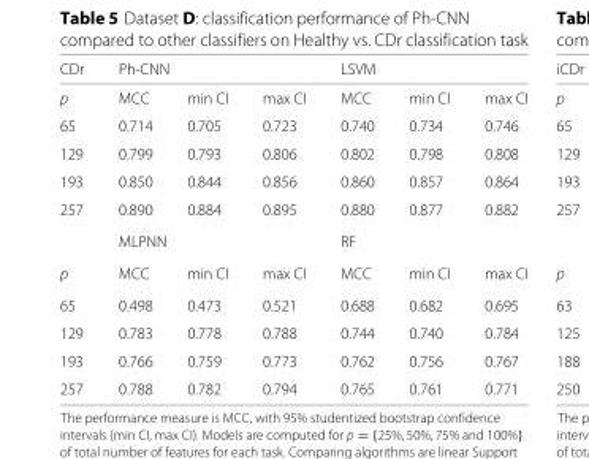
<table><thead><tr><td rowspan="2">CDr p</td><td colspan="3">Ph-CNN</td><td colspan="3">LSVM</td></tr><tr><td>MCC</td><td>min CI</td><td>max CI</td><td>MCC</td><td>min CI</td><td>max CI</td></tr></thead><tbody><tr><td>65</td><td>0.714</td><td>0.705</td><td>0.723</td><td>0.740</td><td>0.734</td><td>0.746</td></tr><tr><td>129</td><td>0.799</td><td>0.793</td><td>0.806</td><td>0.802</td><td>0.798</td><td>0.808</td></tr><tr><td>193</td><td>0.850</td><td>0.844</td><td>0.856</td><td>0.860</td><td>0.857</td><td>0.864</td></tr><tr><td rowspan="2">257</td><td>0.890</td><td>0.884</td><td>0.895</td><td>0.880</td><td>0.877</td><td>0.882</td></tr><tr><td colspan="3">MLPNN</td><td colspan="3">RF</td></tr><tr><td>p</td><td>MCC</td><td>min CI</td><td>max CI</td><td>MCC</td><td>min CI</td><td>max CI</td></tr><tr><td>65</td><td>0.498</td><td>0.473</td><td>0.521</td><td>0.688</td><td>0.682</td><td>0.695</td></tr><tr><td>129</td><td>0.783</td><td>0.778</td><td>0.788</td><td>0.744</td><td>0.740</td><td>0.784</td></tr><tr><td>193</td><td>0.766</td><td>0.759</td><td>0.773</td><td>0.762</td><td>0.756</td><td>0.767</td></tr><tr><td>257</td><td>0.788</td><td>0.782</td><td>0.794</td><td>0.765</td><td>0.761</td><td>0.771</td></tr></tbody></table>